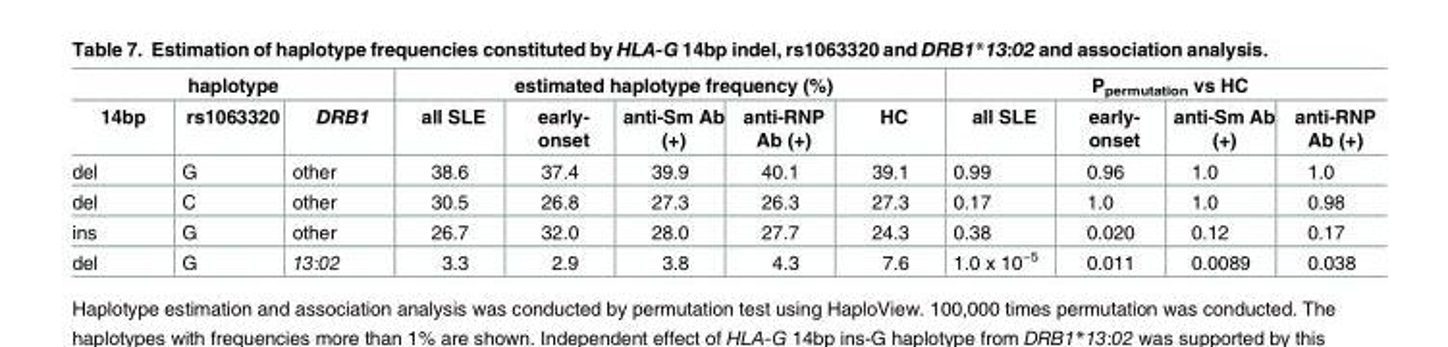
<table><thead><tr><td colspan="3">haplotype</td><td colspan="5">estimated haplotype frequency (%)</td><td colspan="4">P<sub>permutation</sub> vs HC</td></tr><tr><td>14bp</td><td>rs1063320</td><td>DRB1</td><td>all SLE</td><td>early- onset</td><td>anti-Sm Ab (+)</td><td>anti-RNP Ab (+)</td><td>HC</td><td>all SLE</td><td>early- onset</td><td>anti-Sm Ab (+)</td><td>anti-RNP Ab (+)</td></tr></thead><tbody><tr><td>del</td><td>G</td><td>other</td><td>38.6</td><td>37.4</td><td>39.9</td><td>40.1</td><td>39.1</td><td>0.99</td><td>0.96</td><td>1.0</td><td>1.0</td></tr><tr><td>del</td><td>C</td><td>other</td><td>30.5</td><td>26.8</td><td>27.3</td><td>26.3</td><td>27.3</td><td>0.17</td><td>1.0</td><td>1.0</td><td>0.98</td></tr><tr><td>ins</td><td>G</td><td>other</td><td>26.7</td><td>32.0</td><td>28.0</td><td>27.7</td><td>24.3</td><td>0.38</td><td>0.020</td><td>0.12</td><td>0.17</td></tr><tr><td>del</td><td>G</td><td>13:02</td><td>3.3</td><td>2.9</td><td>3.8</td><td>4.3</td><td>7.6</td><td>1.0 x 10<sup>−5</sup></td><td>0.011</td><td>0.0089</td><td>0.038</td></tr></tbody></table>